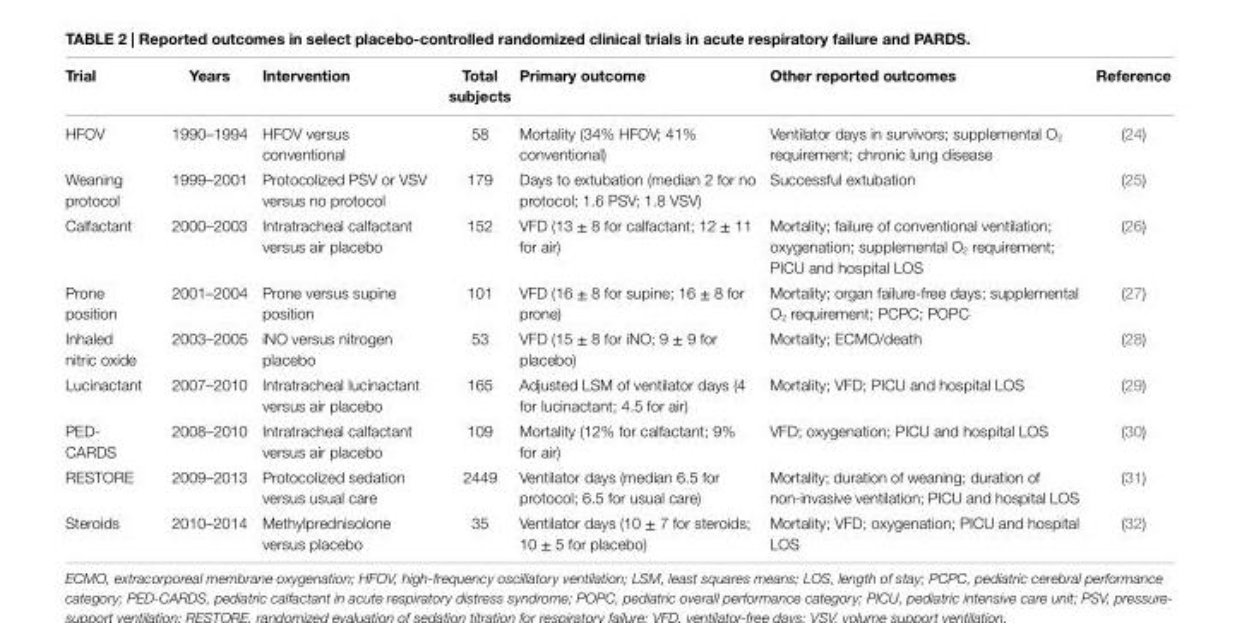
<table><thead><tr><td>Trial</td><td>Years</td><td>intervention</td><td>Total subjects</td><td>Primary outcome</td><td>Other reported outcomes</td><td>Reference</td></tr></thead><tbody><tr><td>HFOV</td><td>1990–1994</td><td>HFOV versus conventional</td><td>58</td><td>Mortality (34% HFOV; 41% conventional)</td><td>Ventilator days in survivors; supplemental O<sub>2</sub> requirement; chronic lung disease</td><td>(24)</td></tr><tr><td>Weaning protocol</td><td>1999–2001</td><td>Protocolized PSV or VSV versus no protocol</td><td>179</td><td>Days to extubation (median 2 for no protocol; 1.6 PSV; 1.8 VSV)</td><td>Successful extubation</td><td>(25)</td></tr><tr><td>Calfactant</td><td>2000–2003</td><td>Intratracheal calfactant versus air placebo</td><td>152</td><td>VFD (13 ± 8 for calfactant; 12 ± 11 for air)</td><td>Mortality; failure of conventional ventilation; oxygenation; supplemental O<sub>2</sub> requirement; PICU and hospital LOS</td><td>(26)</td></tr><tr><td>Prone position</td><td>2001–2004</td><td>Prone versus supine position</td><td>101</td><td>VFD (16 ± 8 for supine; 16 ± 8 for prone)</td><td>Mortality; organ failure-free days; supplemental O<sub>2</sub> requirement; PCPC; POPC</td><td>(27)</td></tr><tr><td>Inhaled nitric oxide</td><td>2003–2005</td><td>iNO versus nitrogen placebo</td><td>53</td><td>VFD (15 ± 8 for iNO; 9 ± 9 for placebo)</td><td>Mortality; ECMO/death</td><td>(28)</td></tr><tr><td>Lucinactant</td><td>2007–2010</td><td>Intratracheal lucinactant versus air placebo</td><td>165</td><td>Adjusted LSM of ventilator days (4 for lucinactant; 4.5 for air)</td><td>Mortality; VFD; PICU and hospital LOS</td><td>(29)</td></tr><tr><td>PED- CARDS</td><td>2008–2010</td><td>Intratracheal calfactant versus air placebo</td><td>109</td><td>Mortality (12% for calfactant; 9% for air)</td><td>VFD; oxygenation; PICU and hospital LOS</td><td>(30)</td></tr><tr><td>RESTORE</td><td>2009–2013</td><td>Protocolized sedation versus usual care</td><td>2449</td><td>Ventilator days (median 6.5 for protocol; 6.5 for usual care)</td><td>Mortality; duration of weaning; duration of non-invasive ventilation; PICU and hospital LOS</td><td>(31)</td></tr><tr><td>Steroids</td><td>2010–2014</td><td>Methylprednisolone versus placebo</td><td>35</td><td>Ventilator days (10 ± 7 for steroids; 10 ± 5 for placebo)</td><td>Mortality; VFD; oxygenation; PICU and hospital LOS</td><td>(32)</td></tr></tbody></table>